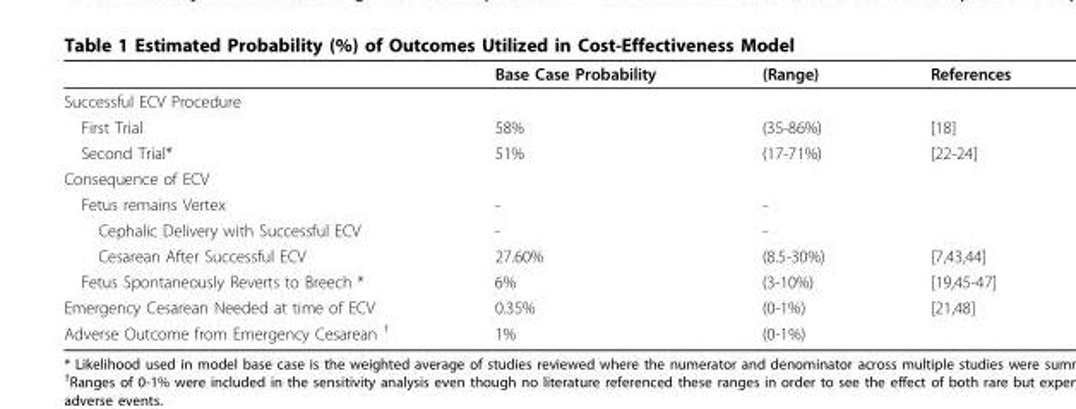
<table><thead><tr><td></td><td>Base Case Probability</td><td>(Range)</td><td>References</td></tr></thead><tbody><tr><td colspan="4">Successful ECV Procedure</td></tr><tr><td>First Trial</td><td>58%</td><td>(35-86%)</td><td>[18]</td></tr><tr><td>Second Trial*</td><td>51%</td><td>(17-71%)</td><td>[22-24]</td></tr><tr><td colspan="4">Consequence of ECV</td></tr><tr><td>Fetus remains Vertex</td><td>-</td><td>-</td><td></td></tr><tr><td>Cephalic Delivery with Successful ECV</td><td>-</td><td>-</td><td></td></tr><tr><td>Cesarean After Successful ECV</td><td>27.60%</td><td>(8.5-30%)</td><td>[7,43,44]</td></tr><tr><td>Fetus Spontaneously Reverts to Breech *</td><td>6%</td><td>(3-10%)</td><td>[19,45-47]</td></tr><tr><td>Emergency Cesarean Needed at time of ECV</td><td>0.35%</td><td>(0-1%)</td><td>[21,48]</td></tr><tr><td>Adverse Outcome from Emergency Cesarean <sup>†</sup></td><td>1%</td><td>(0-1%)</td><td></td></tr></tbody></table>